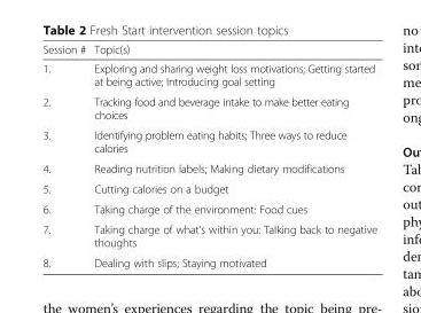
<table><thead><tr><td>Session #</td><td>Topic(s)</td></tr></thead><tbody><tr><td>1.</td><td>Exploring and sharing weight loss motivations; Getting started at being active; Introducing goal setting</td></tr><tr><td>2.</td><td>Tracking food and beverage intake to make better eating choices</td></tr><tr><td>3.</td><td>Identifying problem eating habits; Three ways to reduce calories</td></tr><tr><td>4.</td><td>Reading nutrition labels; Making dietary modifications</td></tr><tr><td>5.</td><td>Cutting calories on a budget</td></tr><tr><td>6.</td><td>Taking charge of the environment: Food cues</td></tr><tr><td>7.</td><td>Taking charge of what’s within you: Talking back to negative thoughts</td></tr><tr><td>8.</td><td>Dealing with slips; Staying motivated</td></tr></tbody></table>